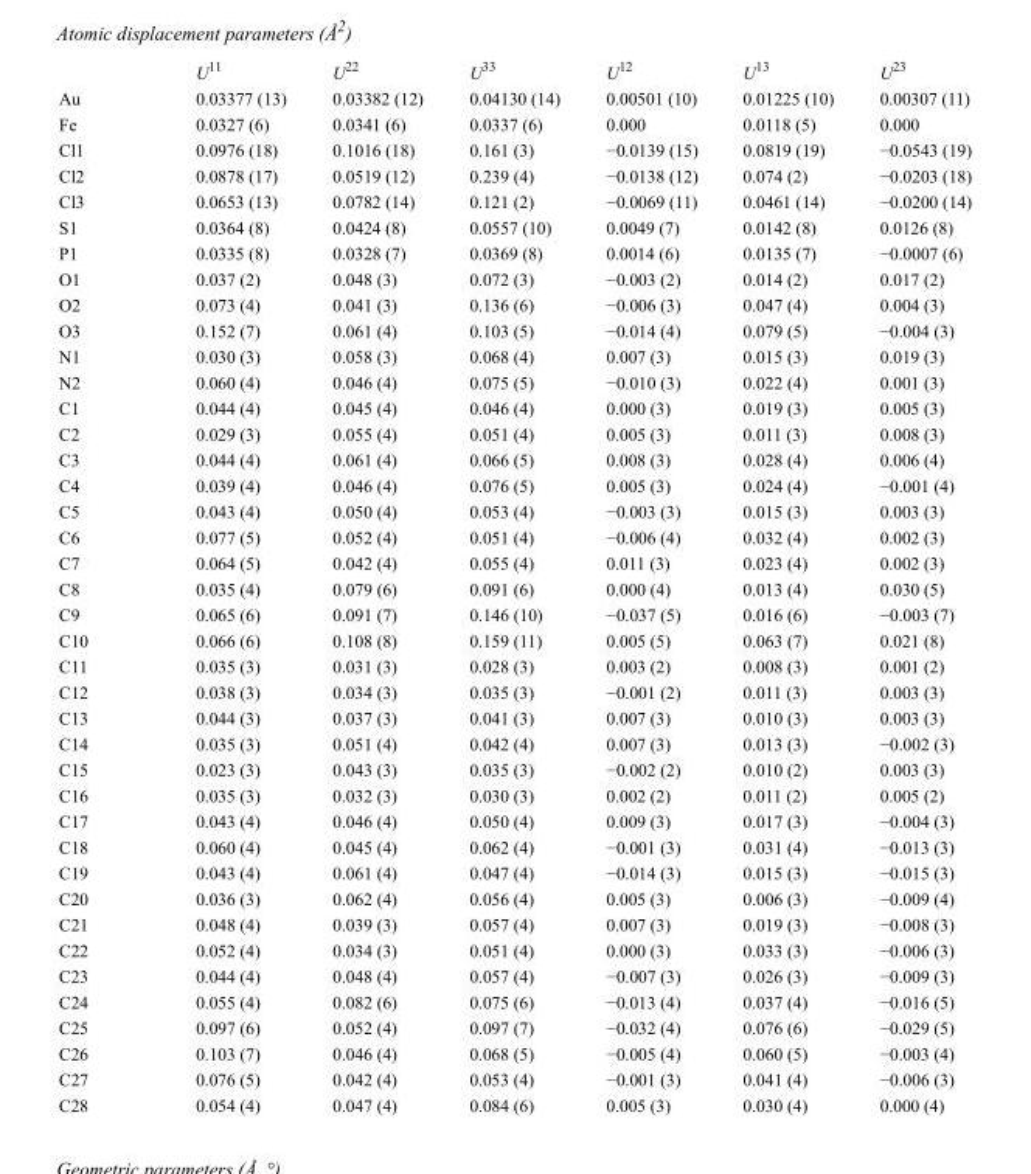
<table><thead><tr><td></td><td>U<sup>11</sup></td><td>U<sup>22</sup></td><td>U<sup>33</sup></td><td>U<sup>12</sup></td><td>U<sup>13</sup></td><td>U<sup>23</sup></td></tr></thead><tbody><tr><td>Au</td><td>0.03377 (13)</td><td>0.03382 (12)</td><td>0.04130 (14)</td><td>0.00501 (10)</td><td>0.01225 (10)</td><td>0.00307 (11)</td></tr><tr><td>Fe</td><td>0.0327 (6)</td><td>0.0341 (6)</td><td>0.0337 (6)</td><td>0.000</td><td>0.0118 (5)</td><td>0.000</td></tr><tr><td>Cl1</td><td>0.0976 (18)</td><td>0.1016 (18)</td><td>0.161 (3)</td><td>−0.0139 (15)</td><td>0.0819 (19)</td><td>−0.0543 (19)</td></tr><tr><td>Cl2</td><td>0.0878 (17)</td><td>0.0519 (12)</td><td>0.239 (4)</td><td>−0.0138 (12)</td><td>0.074 (2)</td><td>−0.0203 (18)</td></tr><tr><td>Cl3</td><td>0.0653 (13)</td><td>0.0782 (14)</td><td>0.121 (2)</td><td>−0.0069 (11)</td><td>0.0461 (14)</td><td>−0.0200 (14)</td></tr><tr><td>S1</td><td>0.0364 (8)</td><td>0.0424 (8)</td><td>0.0557 (10)</td><td>0.0049 (7)</td><td>0.0142 (8)</td><td>0.0126 (8)</td></tr><tr><td>P1</td><td>0.0335 (8)</td><td>0.0328 (7)</td><td>0.0369 (8)</td><td>0.0014 (6)</td><td>0.0135 (7)</td><td>−0.0007 (6)</td></tr><tr><td>O1</td><td>0.037 (2)</td><td>0.048 (3)</td><td>0.072 (3)</td><td>−0.003 (2)</td><td>0.014 (2)</td><td>0.017 (2)</td></tr><tr><td>O2</td><td>0.073 (4)</td><td>0.041 (3)</td><td>0.136 (6)</td><td>−0.006 (3)</td><td>0.047 (4)</td><td>0.004 (3)</td></tr><tr><td>O3</td><td>0.152 (7)</td><td>0.061 (4)</td><td>0.103 (5)</td><td>−0.014 (4)</td><td>0.079 (5)</td><td>−0.004 (3)</td></tr><tr><td>N1</td><td>0.030 (3)</td><td>0.058 (3)</td><td>0.068 (4)</td><td>0.007 (3)</td><td>0.015 (3)</td><td>0.019 (3)</td></tr><tr><td>N2</td><td>0.060 (4)</td><td>0.046 (4)</td><td>0.075 (5)</td><td>−0.010 (3)</td><td>0.022 (4)</td><td>0.001 (3)</td></tr><tr><td>C1</td><td>0.044 (4)</td><td>0.045 (4)</td><td>0.046 (4)</td><td>0.000 (3)</td><td>0.019 (3)</td><td>0.005 (3)</td></tr><tr><td>C2</td><td>0.029 (3)</td><td>0.055 (4)</td><td>0.051 (4)</td><td>0.005 (3)</td><td>0.011 (3)</td><td>0.008 (3)</td></tr><tr><td>C3</td><td>0.044 (4)</td><td>0.061 (4)</td><td>0.066 (5)</td><td>0.008 (3)</td><td>0.028 (4)</td><td>0.006 (4)</td></tr><tr><td>C4</td><td>0.039 (4)</td><td>0.046 (4)</td><td>0.076 (5)</td><td>0.005 (3)</td><td>0.024 (4)</td><td>−0.001 (4)</td></tr><tr><td>C5</td><td>0.043 (4)</td><td>0.050 (4)</td><td>0.053 (4)</td><td>−0.003 (3)</td><td>0.015 (3)</td><td>0.003 (3)</td></tr><tr><td>C6</td><td>0.077 (5)</td><td>0.052 (4)</td><td>0.051 (4)</td><td>−0.006 (4)</td><td>0.032 (4)</td><td>0.002 (3)</td></tr><tr><td>C7</td><td>0.064 (5)</td><td>0.042 (4)</td><td>0.055 (4)</td><td>0.011 (3)</td><td>0.023 (4)</td><td>0.002 (3)</td></tr><tr><td>C8</td><td>0.035 (4)</td><td>0.079 (6)</td><td>0.091 (6)</td><td>0.000 (4)</td><td>0.013 (4)</td><td>0.030 (5)</td></tr><tr><td>C9</td><td>0.065 (6)</td><td>0.091 (7)</td><td>0.146 (10)</td><td>−0.037 (5)</td><td>0.016 (6)</td><td>−0.003 (7)</td></tr><tr><td>C10</td><td>0.066 (6)</td><td>0.108 (8)</td><td>0.159 (11)</td><td>0.005 (5)</td><td>0.063 (7)</td><td>0.021 (8)</td></tr><tr><td>C11</td><td>0.035 (3)</td><td>0.031 (3)</td><td>0.028 (3)</td><td>0.003 (2)</td><td>0.008 (3)</td><td>0.001 (2)</td></tr><tr><td>C12</td><td>0.038 (3)</td><td>0.034 (3)</td><td>0.035 (3)</td><td>−0.001 (2)</td><td>0.011 (3)</td><td>0.003 (3)</td></tr><tr><td>C13</td><td>0.044 (3)</td><td>0.037 (3)</td><td>0.041 (3)</td><td>0.007 (3)</td><td>0.010 (3)</td><td>0.003 (3)</td></tr><tr><td>C14</td><td>0.035 (3)</td><td>0.051 (4)</td><td>0.042 (4)</td><td>0.007 (3)</td><td>0.013 (3)</td><td>−0.002 (3)</td></tr><tr><td>C15</td><td>0.023 (3)</td><td>0.043 (3)</td><td>0.035 (3)</td><td>−0.002 (2)</td><td>0.010 (2)</td><td>0.003 (3)</td></tr><tr><td>C16</td><td>0.035 (3)</td><td>0.032 (3)</td><td>0.030 (3)</td><td>0.002 (2)</td><td>0.011 (2)</td><td>0.005 (2)</td></tr><tr><td>C17</td><td>0.043 (4)</td><td>0.046 (4)</td><td>0.050 (4)</td><td>0.009 (3)</td><td>0.017 (3)</td><td>−0.004 (3)</td></tr><tr><td>C18</td><td>0.060 (4)</td><td>0.045 (4)</td><td>0.062 (4)</td><td>−0.001 (3)</td><td>0.031 (4)</td><td>−0.013 (3)</td></tr><tr><td>C19</td><td>0.043 (4)</td><td>0.061 (4)</td><td>0.047 (4)</td><td>−0.014 (3)</td><td>0.015 (3)</td><td>−0.015 (3)</td></tr><tr><td>C20</td><td>0.036 (3)</td><td>0.062 (4)</td><td>0.056 (4)</td><td>0.005 (3)</td><td>0.006 (3)</td><td>−0.009 (4)</td></tr><tr><td>C21</td><td>0.048 (4)</td><td>0.039 (3)</td><td>0.057 (4)</td><td>0.007 (3)</td><td>0.019 (3)</td><td>−0.008 (3)</td></tr><tr><td>C22</td><td>0.052 (4)</td><td>0.034 (3)</td><td>0.051 (4)</td><td>0.000 (3)</td><td>0.033 (3)</td><td>−0.006 (3)</td></tr><tr><td>C23</td><td>0.044 (4)</td><td>0.048 (4)</td><td>0.057 (4)</td><td>−0.007 (3)</td><td>0.026 (3)</td><td>−0.009 (3)</td></tr><tr><td>C24</td><td>0.055 (4)</td><td>0.082 (6)</td><td>0.075 (6)</td><td>−0.013 (4)</td><td>0.037 (4)</td><td>−0.016 (5)</td></tr><tr><td>C25</td><td>0.097 (6)</td><td>0.052 (4)</td><td>0.097 (7)</td><td>−0.032 (4)</td><td>0.076 (6)</td><td>−0.029 (5)</td></tr><tr><td>C26</td><td>0.103 (7)</td><td>0.046 (4)</td><td>0.068 (5)</td><td>−0.005 (4)</td><td>0.060 (5)</td><td>−0.003 (4)</td></tr><tr><td>C27</td><td>0.076 (5)</td><td>0.042 (4)</td><td>0.053 (4)</td><td>−0.001 (3)</td><td>0.041 (4)</td><td>−0.006 (3)</td></tr><tr><td>C28</td><td>0.054 (4)</td><td>0.047 (4)</td><td>0.084 (6)</td><td>0.005 (3)</td><td>0.030 (4)</td><td>0.000 (4)</td></tr></tbody></table>